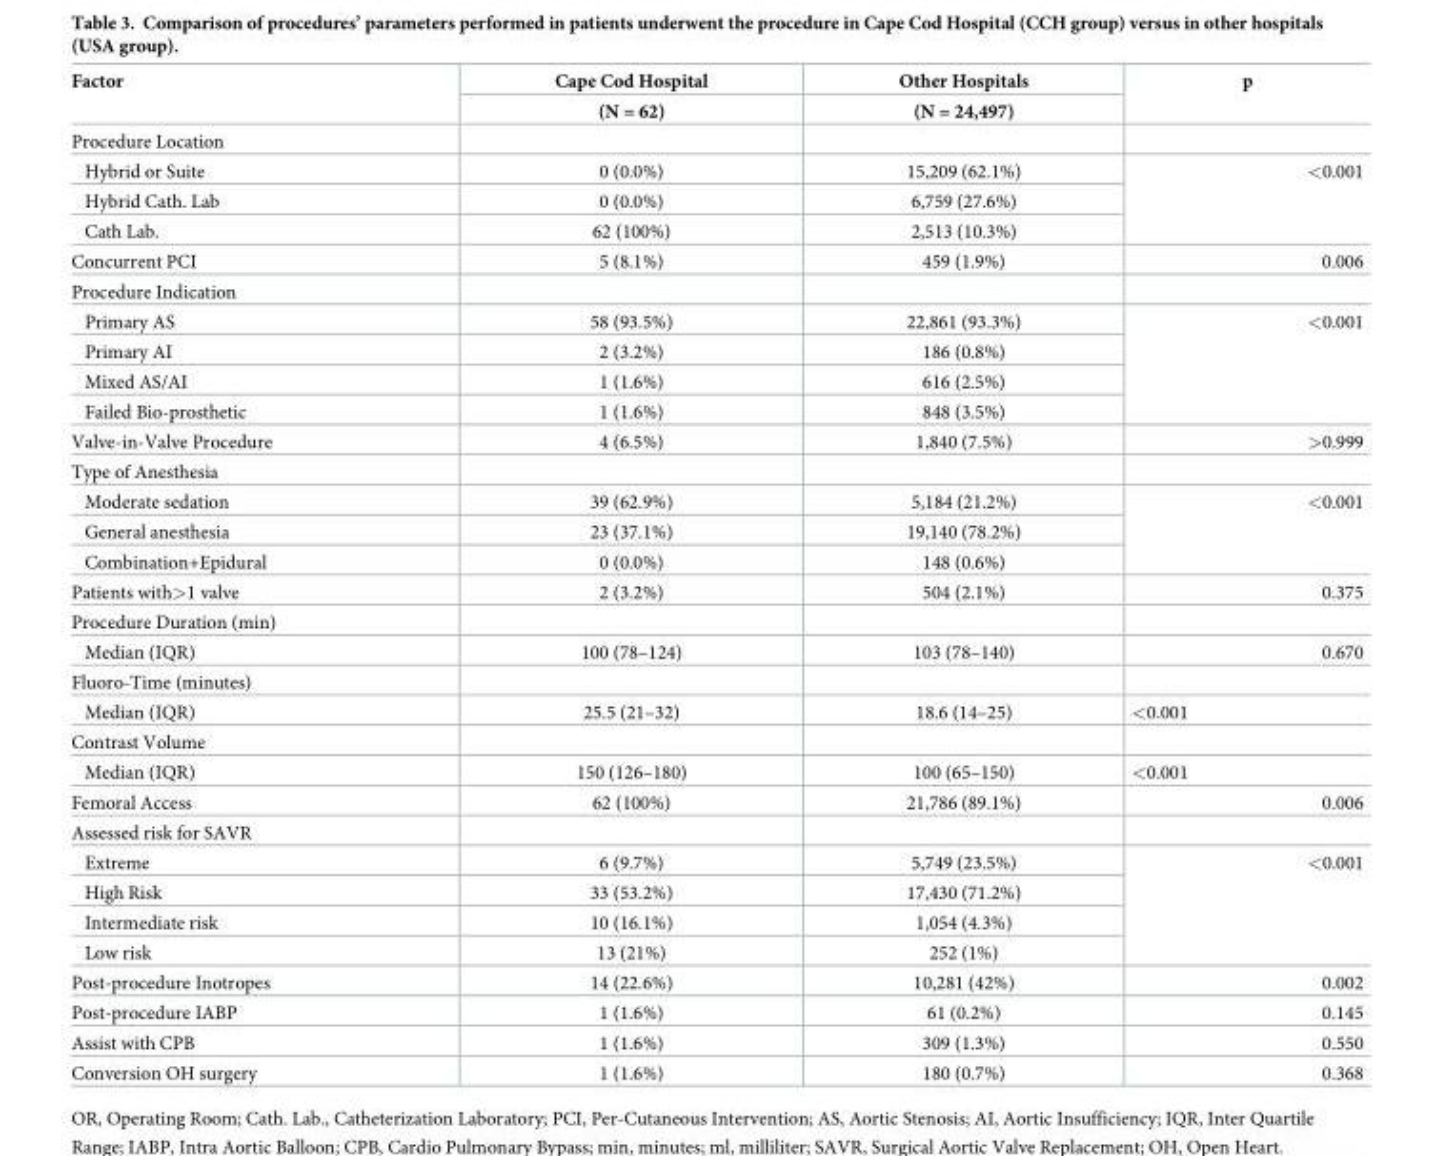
<table><thead><tr><td rowspan="2">Factor</td><td rowspan="2">Cape Cod Hospital (N = 62)</td><td rowspan="2">Other Hospitals (N = 24,497)</td><td rowspan="2">p</td></tr><tr></tr></thead><tbody><tr><td colspan="4">Procedure Location</td></tr><tr><td>Hybrid or Suite</td><td>0 (0.0%)</td><td>15,209 (62.1%)</td><td rowspan="3">&lt;0.001</td></tr><tr><td>Hybrid Cath. Lab</td><td>0 (0.0%)</td><td>6,759 (27.6%)</td></tr><tr><td>Cath Lab.</td><td>62 (100%)</td><td>2,513 (10.3%)</td></tr><tr><td>Concurrent PCI</td><td>5 (8.1%)</td><td>459 (1.9%)</td><td>0.006</td></tr><tr><td colspan="4">Procedure Indication</td></tr><tr><td>Primary AS</td><td>58 (93.5%)</td><td>22,861 (93.3%)</td><td rowspan="4">&lt;0.001</td></tr><tr><td>Primary AI</td><td>2 (3.2%)</td><td>186 (0.8%)</td></tr><tr><td>Mixed AS/AI</td><td>1 (1.6%)</td><td>616 (2.5%)</td></tr><tr><td>Failed Bio-prosthetic</td><td>1 (1.6%)</td><td>848 (3.5%)</td></tr><tr><td>Valve-in-Valve Procedure</td><td>4 (6.5%)</td><td>1,840 (7.5%)</td><td>&gt;0.999</td></tr><tr><td colspan="4">Type of Anesthesia</td></tr><tr><td>Moderate sedation</td><td>39 (62.9%)</td><td>5,184 (21.2%)</td><td rowspan="3">&lt;0.001</td></tr><tr><td>General anesthesia</td><td>23 (37.1%)</td><td>19,140 (78.2%)</td></tr><tr><td>Combination+Epidural</td><td>0 (0.0%)</td><td>148 (0.6%)</td></tr><tr><td>Patients with&gt;1 valve</td><td>2 (3.2%)</td><td>504 (2.1%)</td><td>0.375</td></tr><tr><td colspan="4">Procedure Duration (min)</td></tr><tr><td>Median (IQR)</td><td>100 (78–124)</td><td>103 (78–140)</td><td>0.670</td></tr><tr><td colspan="4">Fluoro-Time (minutes)</td></tr><tr><td>Median (IQR)</td><td>25.5 (21–32)</td><td>18.6 (14–25)</td><td>&lt;0.001</td></tr><tr><td colspan="4">Contrast Volume</td></tr><tr><td>Median (IQR)</td><td>150 (126–180)</td><td>100 (65–150)</td><td>&lt;0.001</td></tr><tr><td>Femoral Access</td><td>62 (100%)</td><td>21,786 (89.1%)</td><td>0.006</td></tr><tr><td colspan="4">Assessed risk for SAVR</td></tr><tr><td>Extreme</td><td>6 (9.7%)</td><td>5,749 (23.5%)</td><td rowspan="4">&lt;0.001</td></tr><tr><td>High Risk</td><td>33 (53.2%)</td><td>17,430 (71.2%)</td></tr><tr><td>Intermediate risk</td><td>10 (16.1%)</td><td>1,054 (4.3%)</td></tr><tr><td>Low risk</td><td>13 (21%)</td><td>252 (1%)</td></tr><tr><td>Post-procedure Inotropes</td><td>14 (22.6%)</td><td>10,281 (42%)</td><td>0.002</td></tr><tr><td>Post-procedure IABP</td><td>1 (1.6%)</td><td>61 (0.2%)</td><td>0.145</td></tr><tr><td>Assist with CPB</td><td>1 (1.6%)</td><td>309 (1.3%)</td><td>0.550</td></tr><tr><td>Conversion OH surgery</td><td>1 (1.6%)</td><td>180 (0.7%)</td><td>0.368</td></tr></tbody></table>